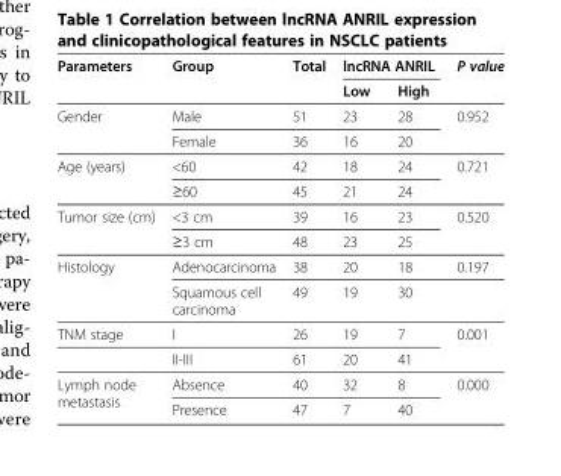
<table><thead><tr><td rowspan="2">Parameters</td><td rowspan="2">Group</td><td rowspan="2">Total</td><td colspan="2">lncRNA ANRIL</td><td rowspan="2">P value</td></tr><tr><td>Low</td><td>High</td></tr></thead><tbody><tr><td rowspan="2">Gender</td><td>Male</td><td>51</td><td>23</td><td>28</td><td rowspan="2">0.952</td></tr><tr><td>Female</td><td>36</td><td>16</td><td>20</td></tr><tr><td rowspan="2">Age (years)</td><td>&lt;60</td><td>42</td><td>18</td><td>24</td><td rowspan="2">0.721</td></tr><tr><td>≥60</td><td>45</td><td>21</td><td>24</td></tr><tr><td rowspan="2">Tumor size (cm)</td><td>&lt;3 cm</td><td>39</td><td>16</td><td>23</td><td rowspan="2">0.520</td></tr><tr><td>≥3 cm</td><td>48</td><td>23</td><td>25</td></tr><tr><td rowspan="2">Histology</td><td>Adenocarcinoma</td><td>38</td><td>20</td><td>18</td><td>0.197</td></tr><tr><td>Squamous cell carcinoma</td><td>49</td><td>19</td><td>30</td><td></td></tr><tr><td rowspan="2">TNM stage</td><td>I</td><td>26</td><td>19</td><td>7</td><td rowspan="2">0.001</td></tr><tr><td>II-III</td><td>61</td><td>20</td><td>41</td></tr><tr><td rowspan="2">Lymph node metastasis</td><td>Absence</td><td>40</td><td>32</td><td>8</td><td rowspan="2">0.000</td></tr><tr><td>Presence</td><td>47</td><td>7</td><td>40</td></tr></tbody></table>